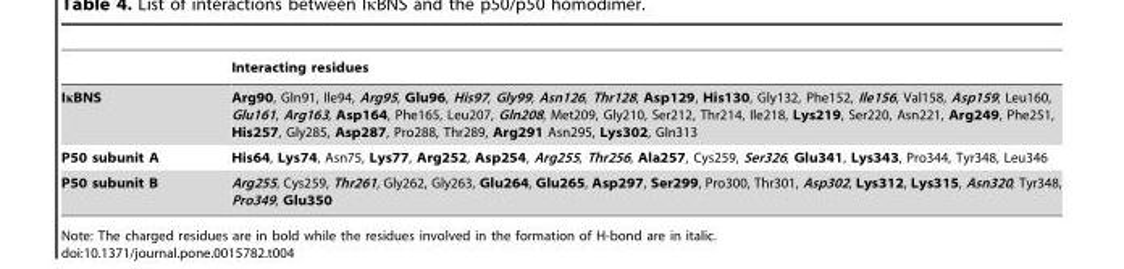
<table><thead><tr><td></td><td>Interacting residues</td></tr></thead><tbody><tr><td>IκBNS</td><td>Arg90, Gln91, Ile94, Arg95, Glu96, His97, Gly99, Asn126, Thr128, Asp129, His130, Gly132, Phe152, Ile156, Val158, Asp159, Leu160, Glu161, Arg163, Asp164, Phe165, Leu207, Gln208, Met209, Gly210, Ser212, Thr214, Ile218, Lys219, Ser220, Asn221, Arg249, Phe251, His257, Gly285, Asp287, Pro288, Thr289, Arg291 Asn295, Lys302, Gln313</td></tr><tr><td>P50 subunit A</td><td>His64, Lys74, Asn75, Lys77, Arg252, Asp254, Arg255, Thr256, Ala257, Cys259, Ser326, Glu341, Lys343, Pro344, Tyr348, Leu346</td></tr><tr><td>P50 subunit B</td><td>Arg255, Cys259, Thr261, Gly262, Gly263, Glu264, Glu265, Asp297, Ser299, Pro300, Thr301, Asp302, Lys312, Lys315, Asn320, Tyr348, Pro349, Glu350</td></tr></tbody></table>